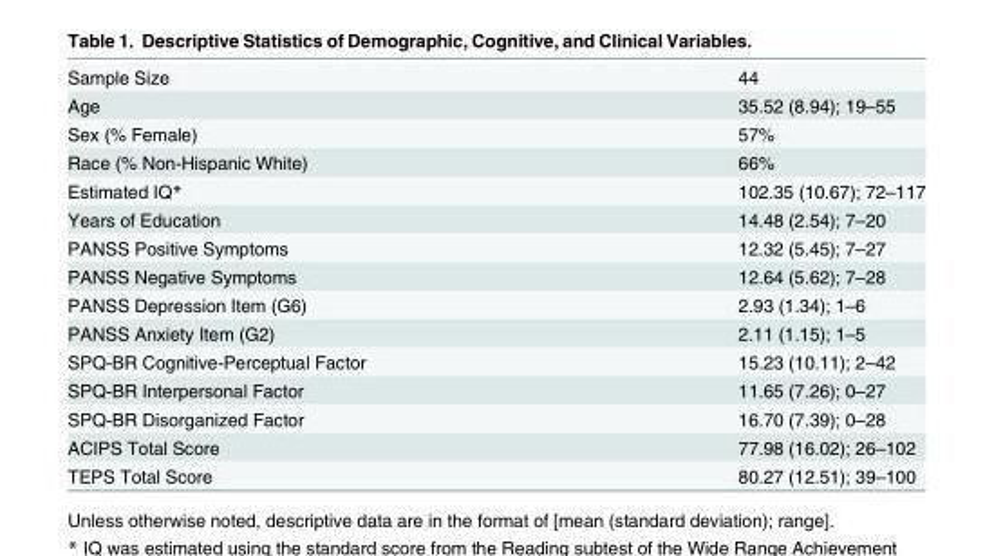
<table><tbody><tr><td>Sample Size</td><td>44</td></tr><tr><td>Age</td><td>35.52 (8.94); 19–55</td></tr><tr><td>Sex (% Female)</td><td>57%</td></tr><tr><td>Race (% Non-Hispanic White)</td><td>66%</td></tr><tr><td>Estimated IQ*</td><td>102.35 (10.67); 72–117</td></tr><tr><td>Years of Education</td><td>14.48 (2.54); 7–20</td></tr><tr><td>PANSS Positive Symptoms</td><td>12.32 (5.45); 7–27</td></tr><tr><td>PANSS Negative Symptoms</td><td>12.64 (5.62); 7–28</td></tr><tr><td>PANSS Depression Item (G6)</td><td>2.93 (1.34); 1–6</td></tr><tr><td>PANSS Anxiety Item (G2)</td><td>2.11 (1.15); 1–5</td></tr><tr><td>SPQ-BR Cognitive-Perceptual Factor</td><td>15.23 (10.11); 2–42</td></tr><tr><td>SPQ-BR Interpersonal Factor</td><td>11.65 (7.26); 0–27</td></tr><tr><td>SPQ-BR Disorganized Factor</td><td>16.70 (7.39); 0–28</td></tr><tr><td>ACIPS Total Score</td><td>77.98 (16.02); 26–102</td></tr><tr><td>TEPS Total Score</td><td>80.27 (12.51); 39–100</td></tr></tbody></table>